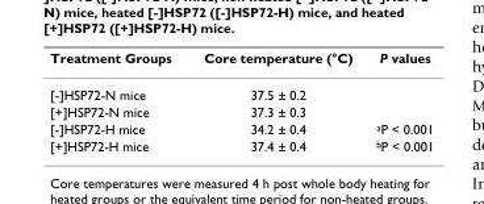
<table><thead><tr><td>Treatment Groups</td><td>Core temperature (°C)</td><td>P values</td></tr></thead><tbody><tr><td>[-]HSP72-N mice</td><td>37.5 ± 0.2</td><td></td></tr><tr><td>[+]HSP72-N mice</td><td>37.3 ± 0.3</td><td></td></tr><tr><td>[-]HSP72-H mice</td><td>34.2 ± 0.4</td><td><sup>a</sup>P &lt; 0.001</td></tr><tr><td>[+]HSP72-H mice</td><td>37.4 ± 0.4</td><td><sup>b</sup>P &lt; 0.001</td></tr></tbody></table>